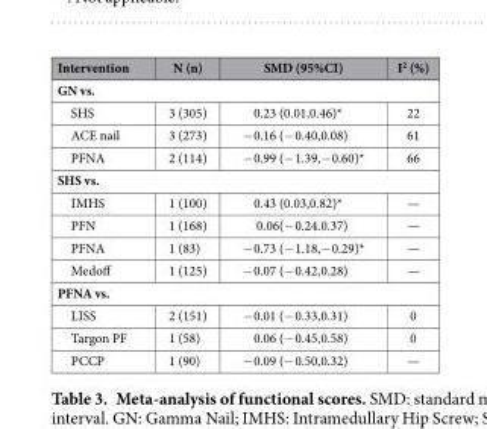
<table><thead><tr><td>Intervention</td><td>N (n)</td><td>SMD (95%CI)</td><td>I<sup>2</sup> (%)</td></tr></thead><tbody><tr><td colspan="4">GN vs.</td></tr><tr><td>SHS</td><td>3 (305)</td><td>0.23 (0.01,0.46)*</td><td>22</td></tr><tr><td>ACE nail</td><td>3 (273)</td><td>− 0.16 (− 0.40,0.08)</td><td>61</td></tr><tr><td>PFNA</td><td>2 (114)</td><td>− 0.99 (− 1.39,− 0.60)*</td><td>66</td></tr><tr><td colspan="4">SHS vs.</td></tr><tr><td>IMHS</td><td>1 (100)</td><td>0.43 (0.03,0.82)*</td><td>—</td></tr><tr><td>PFN</td><td>1 (168)</td><td>0.06(− 0.24.0.37)</td><td>—</td></tr><tr><td>PFNA</td><td>1 (83)</td><td>− 0.73 (− 1.18,− 0.29)*</td><td>—</td></tr><tr><td>Medoff</td><td>1 (125)</td><td>− 0.07 (− 0.42,0.28)</td><td>—</td></tr><tr><td colspan="4">PFNA vs.</td></tr><tr><td>LISS</td><td>2 (151)</td><td>− 0.01 (− 0.33,0.31)</td><td>0</td></tr><tr><td>Targon PF</td><td>1 (58)</td><td>0.06 (− 0.45,0.58)</td><td>0</td></tr><tr><td>PCCP</td><td>1 (90)</td><td>− 0.09 (− 0.50,0.32)</td><td>—</td></tr></tbody></table>